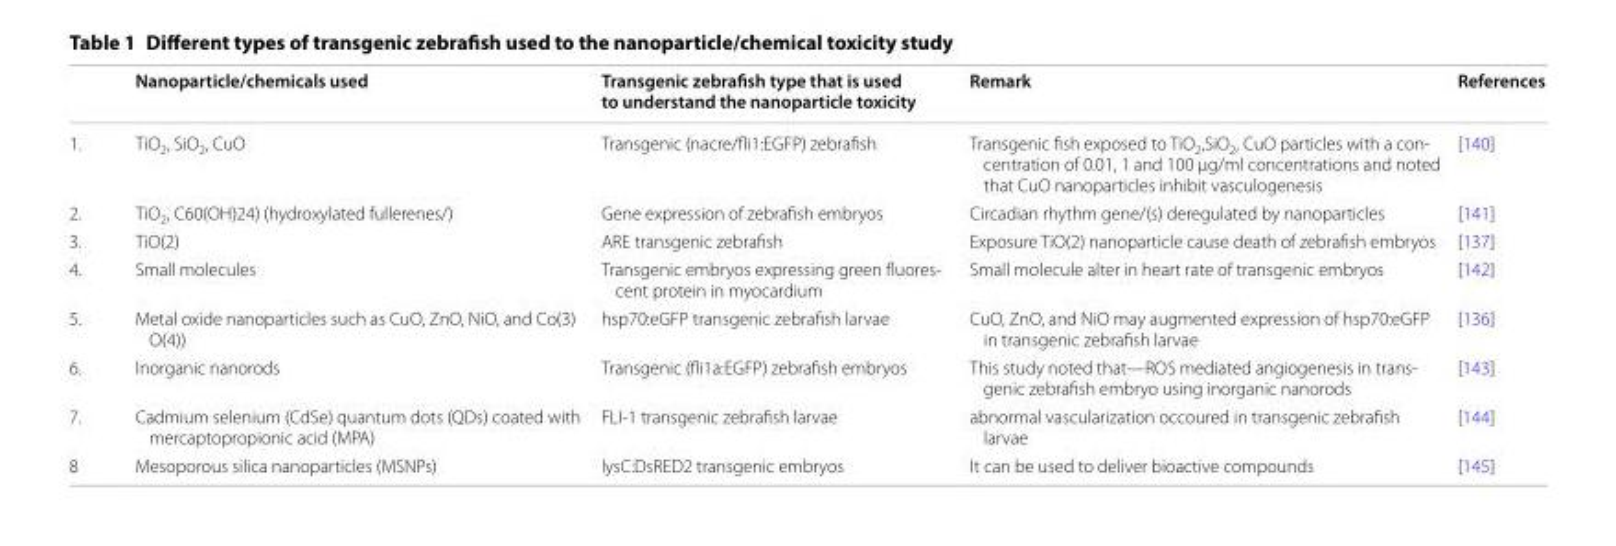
<table><thead><tr><td></td><td>Nanoparticle/chemicals used</td><td>Transgenic zebrafish type that is used to understand the nanoparticle toxicity</td><td>Remark</td><td>References</td></tr></thead><tbody><tr><td>1.</td><td>TiO<sub>2</sub>, SiO<sub>2</sub>, CuO</td><td>Transgenic (nacre/fli1:EGFP) zebrafish</td><td>Transgenic fish exposed to TiO2,SiO2, CuO particles with a con‑ centration of 0.01, 1 and 100 μg/ml concentrations and noted that CuO nanoparticles inhibit vasculogenesis</td><td>[140]</td></tr><tr><td>2.</td><td>TiO<sub>2</sub>, C60(OH)24) (hydroxylated fullerenes/)</td><td>Gene expression of zebrafish embryos</td><td>Circadian rhythm gene/(s) deregulated by nanoparticles</td><td>[141]</td></tr><tr><td>3.</td><td>TiO(2)</td><td>ARE transgenic zebrafish</td><td>Exposure TiO(2) nanoparticle cause death of zebrafish embryos</td><td>[137]</td></tr><tr><td>4.</td><td>Small molecules</td><td>Transgenic embryos expressing green fluores‑ cent protein in myocardium</td><td>Small molecule alter in heart rate of transgenic embryos</td><td>[142]</td></tr><tr><td>5.</td><td>Metal oxide nanoparticles such as CuO, ZnO, NiO, and Co(3) O(4))</td><td>hsp70:eGFP transgenic zebrafish larvae</td><td>CuO, ZnO, and NiO may augmented expression of hsp70:eGFP in transgenic zebrafish larvae</td><td>[136]</td></tr><tr><td>6.</td><td>Inorganic nanorods</td><td>Transgenic (fli1a:EGFP) zebrafish embryos</td><td>This study noted that—ROS mediated angiogenesis in trans‑ genic zebrafish embryo using inorganic nanorods</td><td>[143]</td></tr><tr><td>7.</td><td>Cadmium selenium (CdSe) quantum dots (QDs) coated with mercaptopropionic acid (MPA)</td><td>FLI‑1 transgenic zebrafish larvae</td><td>abnormal vascularization occoured in transgenic zebrafish larvae</td><td>[144]</td></tr><tr><td>8</td><td>Mesoporous silica nanoparticles (MSNPs)</td><td>lysC:DsRED2 transgenic embryos</td><td>It can be used to deliver bioactive compounds</td><td>[145]</td></tr></tbody></table>